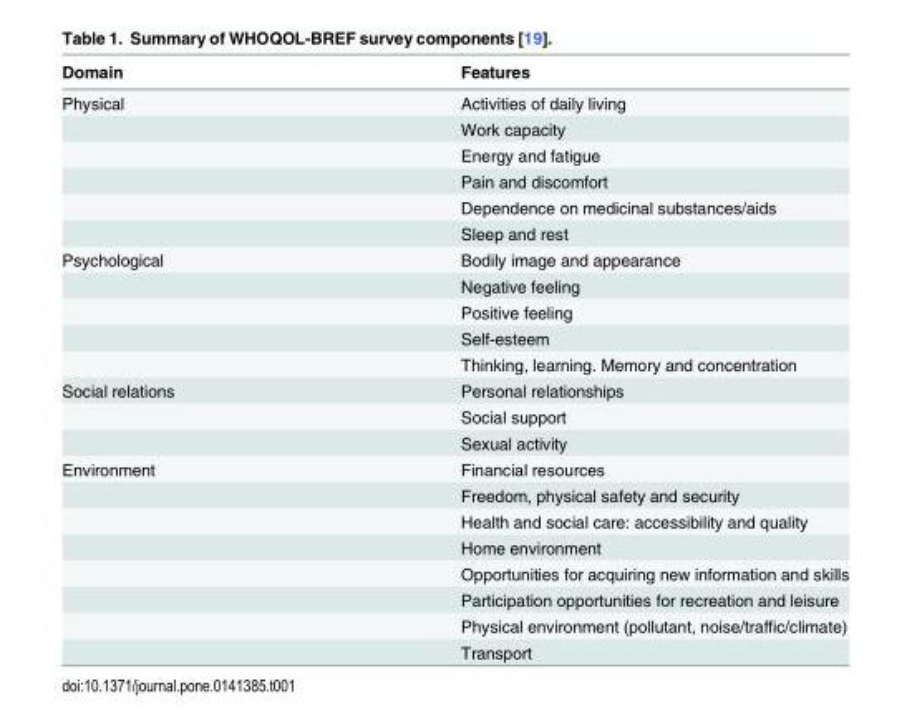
<table><thead><tr><td>Domain</td><td>Features</td></tr></thead><tbody><tr><td rowspan="6">Physical</td><td>Activities of daily living</td></tr><tr><td>Work capacity</td></tr><tr><td>Energy and fatigue</td></tr><tr><td>Pain and discomfort</td></tr><tr><td>Dependence on medicinal substances/aids</td></tr><tr><td>Sleep and rest</td></tr><tr><td rowspan="5">Psychological</td><td>Bodily image and appearance</td></tr><tr><td>Negative feeling</td></tr><tr><td>Positive feeling</td></tr><tr><td>Self-esteem</td></tr><tr><td>Thinking, learning. Memory and concentration</td></tr><tr><td rowspan="3">Social relations</td><td>Personal relationships</td></tr><tr><td>Social support</td></tr><tr><td>Sexual activity</td></tr><tr><td rowspan="8">Environment</td><td>Financial resources</td></tr><tr><td>Freedom, physical safety and security</td></tr><tr><td>Health and social care: accessibility and quality</td></tr><tr><td>Home environment</td></tr><tr><td>Opportunities for acquiring new information and skills</td></tr><tr><td>Participation opportunities for recreation and leisure</td></tr><tr><td>Physical environment (pollutant, noise/traffic/climate)</td></tr><tr><td>Transport</td></tr></tbody></table>